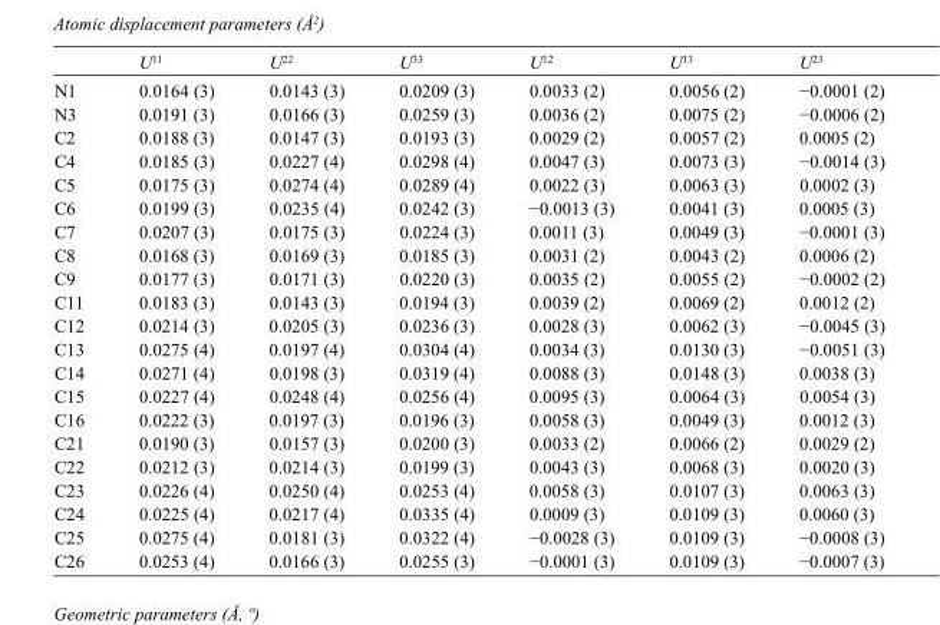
<table><thead><tr><td></td><td>U<sup>11</sup></td><td>U<sup>22</sup></td><td>U<sup>33</sup></td><td>U<sup>12</sup></td><td>U<sup>13</sup></td><td>U<sup>23</sup></td></tr></thead><tbody><tr><td>N1</td><td>0.0164 (3)</td><td>0.0143 (3)</td><td>0.0209 (3)</td><td>0.0033 (2)</td><td>0.0056 (2)</td><td>−0.0001 (2)</td></tr><tr><td>N3</td><td>0.0191 (3)</td><td>0.0166 (3)</td><td>0.0259 (3)</td><td>0.0036 (2)</td><td>0.0075 (2)</td><td>−0.0006 (2)</td></tr><tr><td>C2</td><td>0.0188 (3)</td><td>0.0147 (3)</td><td>0.0193 (3)</td><td>0.0029 (2)</td><td>0.0057 (2)</td><td>0.0005 (2)</td></tr><tr><td>C4</td><td>0.0185 (3)</td><td>0.0227 (4)</td><td>0.0298 (4)</td><td>0.0047 (3)</td><td>0.0073 (3)</td><td>−0.0014 (3)</td></tr><tr><td>C5</td><td>0.0175 (3)</td><td>0.0274 (4)</td><td>0.0289 (4)</td><td>0.0022 (3)</td><td>0.0063 (3)</td><td>0.0002 (3)</td></tr><tr><td>C6</td><td>0.0199 (3)</td><td>0.0235 (4)</td><td>0.0242 (3)</td><td>−0.0013 (3)</td><td>0.0041 (3)</td><td>0.0005 (3)</td></tr><tr><td>C7</td><td>0.0207 (3)</td><td>0.0175 (3)</td><td>0.0224 (3)</td><td>0.0011 (3)</td><td>0.0049 (3)</td><td>−0.0001 (3)</td></tr><tr><td>C8</td><td>0.0168 (3)</td><td>0.0169 (3)</td><td>0.0185 (3)</td><td>0.0031 (2)</td><td>0.0043 (2)</td><td>0.0006 (2)</td></tr><tr><td>C9</td><td>0.0177 (3)</td><td>0.0171 (3)</td><td>0.0220 (3)</td><td>0.0035 (2)</td><td>0.0055 (2)</td><td>−0.0002 (2)</td></tr><tr><td>C11</td><td>0.0183 (3)</td><td>0.0143 (3)</td><td>0.0194 (3)</td><td>0.0039 (2)</td><td>0.0069 (2)</td><td>0.0012 (2)</td></tr><tr><td>C12</td><td>0.0214 (3)</td><td>0.0205 (3)</td><td>0.0236 (3)</td><td>0.0028 (3)</td><td>0.0062 (3)</td><td>−0.0045 (3)</td></tr><tr><td>C13</td><td>0.0275 (4)</td><td>0.0197 (4)</td><td>0.0304 (4)</td><td>0.0034 (3)</td><td>0.0130 (3)</td><td>−0.0051 (3)</td></tr><tr><td>C14</td><td>0.0271 (4)</td><td>0.0198 (3)</td><td>0.0319 (4)</td><td>0.0088 (3)</td><td>0.0148 (3)</td><td>0.0038 (3)</td></tr><tr><td>C15</td><td>0.0227 (4)</td><td>0.0248 (4)</td><td>0.0256 (4)</td><td>0.0095 (3)</td><td>0.0064 (3)</td><td>0.0054 (3)</td></tr><tr><td>C16</td><td>0.0222 (3)</td><td>0.0197 (3)</td><td>0.0196 (3)</td><td>0.0058 (3)</td><td>0.0049 (3)</td><td>0.0012 (3)</td></tr><tr><td>C21</td><td>0.0190 (3)</td><td>0.0157 (3)</td><td>0.0200 (3)</td><td>0.0033 (2)</td><td>0.0066 (2)</td><td>0.0029 (2)</td></tr><tr><td>C22</td><td>0.0212 (3)</td><td>0.0214 (3)</td><td>0.0199 (3)</td><td>0.0043 (3)</td><td>0.0068 (3)</td><td>0.0020 (3)</td></tr><tr><td>C23</td><td>0.0226 (4)</td><td>0.0250 (4)</td><td>0.0253 (4)</td><td>0.0058 (3)</td><td>0.0107 (3)</td><td>0.0063 (3)</td></tr><tr><td>C24</td><td>0.0225 (4)</td><td>0.0217 (4)</td><td>0.0335 (4)</td><td>0.0009 (3)</td><td>0.0109 (3)</td><td>0.0060 (3)</td></tr><tr><td>C25</td><td>0.0275 (4)</td><td>0.0181 (3)</td><td>0.0322 (4)</td><td>−0.0028 (3)</td><td>0.0109 (3)</td><td>−0.0008 (3)</td></tr><tr><td>C26</td><td>0.0253 (4)</td><td>0.0166 (3)</td><td>0.0255 (3)</td><td>−0.0001 (3)</td><td>0.0109 (3)</td><td>−0.0007 (3)</td></tr></tbody></table>